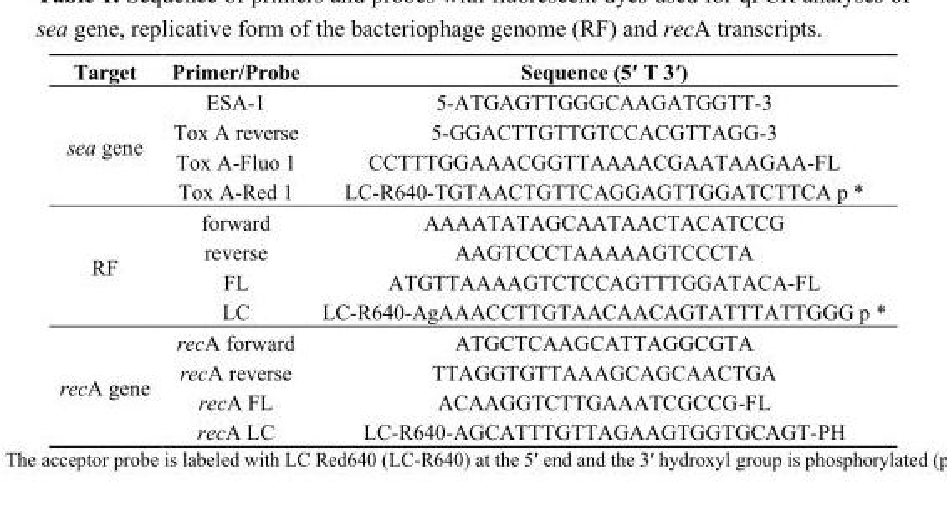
<table><thead><tr><td>Target</td><td>Primer/Probe</td><td>Sequence (5′ T 3′)</td></tr></thead><tbody><tr><td rowspan="4">sea gene</td><td>ESA-1</td><td>5-ATGAGTTGGGCAAGATGGTT-3</td></tr><tr><td>Tox A reverse</td><td>5-GGACTTGTTGTCCACGTTAGG-3</td></tr><tr><td>Tox A-Fluo 1</td><td>CCTTTGGAAACGGTTAAAACGAATAAGAA-FL</td></tr><tr><td>Tox A-Red 1</td><td>LC-R640-TGTAACTGTTCAGGAGTTGGATCTTCA p *</td></tr><tr><td rowspan="4">RF</td><td>forward</td><td>AAAATATAGCAATAACTACATCCG</td></tr><tr><td>reverse</td><td>AAGTCCCTAAAAAGTCCCTA</td></tr><tr><td>FL</td><td>ATGTTAAAAGTCTCCAGTTTGGATACA-FL</td></tr><tr><td>LC</td><td>LC-R640-AgAAACCTTGTAACAACAGTATTTATTGGG p *</td></tr><tr><td rowspan="4">recA gene</td><td>recA forward</td><td>ATGCTCAAGCATTAGGCGTA</td></tr><tr><td>recA reverse</td><td>TTAGGTGTTAAAGCAGCAACTGA</td></tr><tr><td>recA FL</td><td>ACAAGGTCTTGAAATCGCCG-FL</td></tr><tr><td>recA LC</td><td>LC-R640-AGCATTTGTTAGAAGTGGTGCAGT-PH</td></tr></tbody></table>